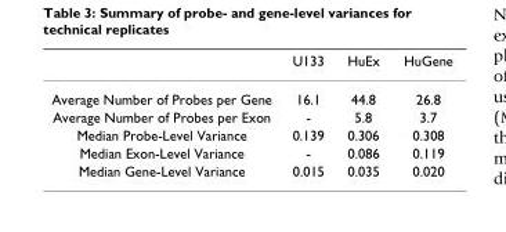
<table><thead><tr><td></td><td>U133</td><td>HuEx</td><td>HuGene</td></tr></thead><tbody><tr><td>Average Number of Probes per Gene</td><td>16.1</td><td>44.8</td><td>26.8</td></tr><tr><td>Average Number of Probes per Exon</td><td>-</td><td>5.8</td><td>3.7</td></tr><tr><td>Median Probe-Level Variance</td><td>0.139</td><td>0.306</td><td>0.308</td></tr><tr><td>Median Exon-Level Variance</td><td>-</td><td>0.086</td><td>0.119</td></tr><tr><td>Median Gene-Level Variance</td><td>0.015</td><td>0.035</td><td>0.020</td></tr></tbody></table>